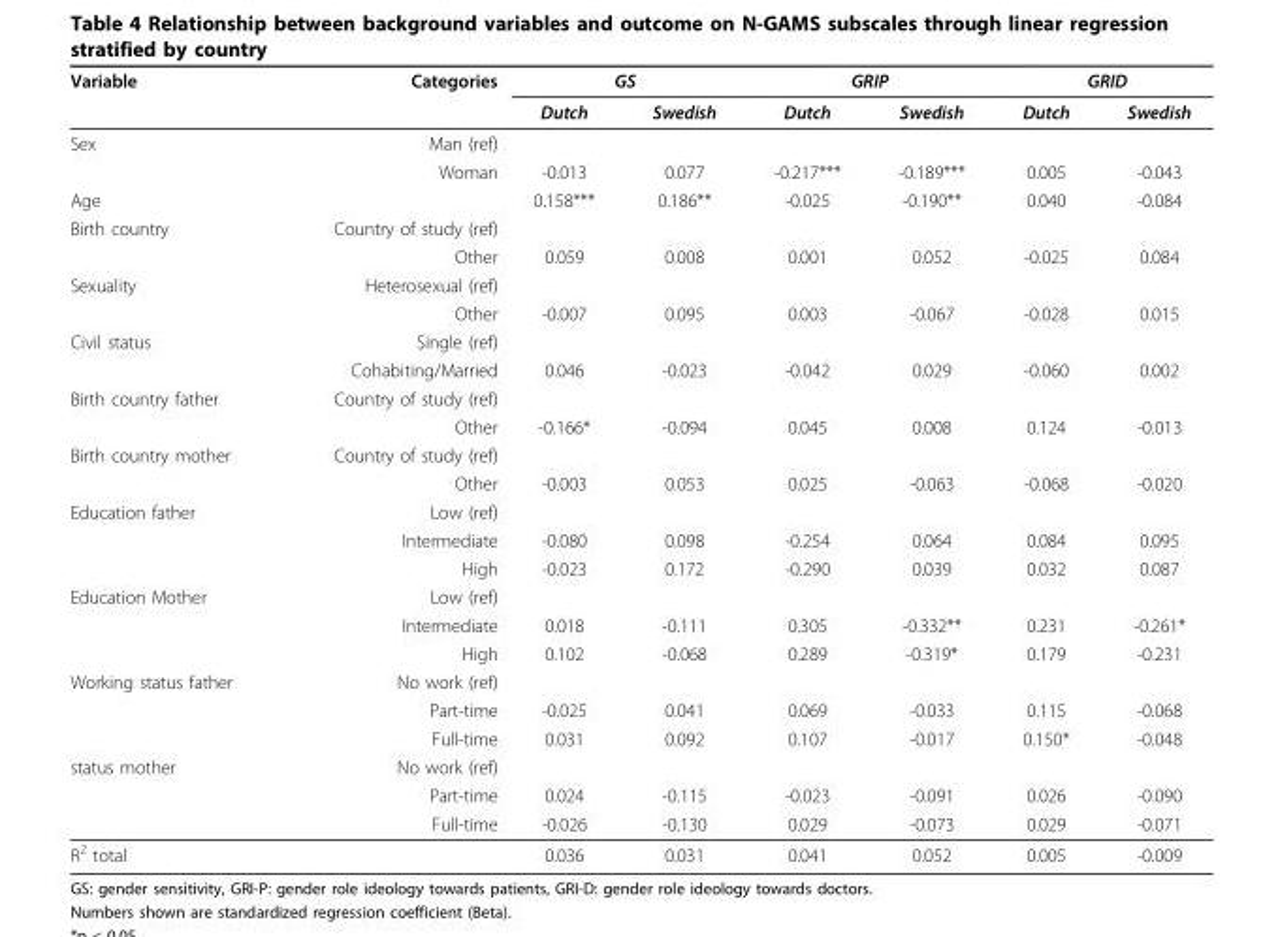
<table><thead><tr><td rowspan="2">Variable</td><td rowspan="2">Categories</td><td colspan="2">GS</td><td colspan="2">GRIP</td><td colspan="2">GRID</td></tr><tr><td>Dutch</td><td>Swedish</td><td>Dutch</td><td>Swedish</td><td>Dutch</td><td>Swedish</td></tr></thead><tbody><tr><td rowspan="2">Sex</td><td>Man (ref)</td><td></td><td></td><td></td><td></td><td></td><td></td></tr><tr><td>Woman</td><td>-0.013</td><td>0.077</td><td>-0.217***</td><td>-0.189***</td><td>0.005</td><td>-0.043</td></tr><tr><td>Age</td><td></td><td>0.158***</td><td>0.186**</td><td>-0.025</td><td>-0.190**</td><td>0.040</td><td>-0.084</td></tr><tr><td rowspan="2">Birth country</td><td>Country of study (ref)</td><td></td><td></td><td></td><td></td><td></td><td></td></tr><tr><td>Other</td><td>0.059</td><td>0.008</td><td>0.001</td><td>0.052</td><td>-0.025</td><td>0.084</td></tr><tr><td rowspan="2">Sexuality</td><td>Heterosexual (ref)</td><td></td><td></td><td></td><td></td><td></td><td></td></tr><tr><td>Other</td><td>-0.007</td><td>0.095</td><td>0.003</td><td>-0.067</td><td>-0.028</td><td>0.015</td></tr><tr><td rowspan="2">Civil status</td><td>Single (ref)</td><td></td><td></td><td></td><td></td><td></td><td></td></tr><tr><td>Cohabiting/Married</td><td>0.046</td><td>-0.023</td><td>-0.042</td><td>0.029</td><td>-0.060</td><td>0.002</td></tr><tr><td rowspan="2">Birth country father</td><td>Country of study (ref)</td><td></td><td></td><td></td><td></td><td></td><td></td></tr><tr><td>Other</td><td>-0.166*</td><td>-0.094</td><td>0.045</td><td>0.008</td><td>0.124</td><td>-0.013</td></tr><tr><td rowspan="2">Birth country mother</td><td>Country of study (ref)</td><td></td><td></td><td></td><td></td><td></td><td></td></tr><tr><td>Other</td><td>-0.003</td><td>0.053</td><td>0.025</td><td>-0.063</td><td>-0.068</td><td>-0.020</td></tr><tr><td rowspan="3">Education father</td><td>Low (ref)</td><td></td><td></td><td></td><td></td><td></td><td></td></tr><tr><td>Intermediate</td><td>-0.080</td><td>0.098</td><td>-0.254</td><td>0.064</td><td>0.084</td><td>0.095</td></tr><tr><td>High</td><td>-0.023</td><td>0.172</td><td>-0.290</td><td>0.039</td><td>0.032</td><td>0.087</td></tr><tr><td rowspan="3">Education Mother</td><td>Low (ref)</td><td></td><td></td><td></td><td></td><td></td><td></td></tr><tr><td>Intermediate</td><td>0.018</td><td>-0.111</td><td>0.305</td><td>-0.332**</td><td>0.231</td><td>-0.261*</td></tr><tr><td>High</td><td>0.102</td><td>-0.068</td><td>0.289</td><td>-0.319*</td><td>0.179</td><td>-0.231</td></tr><tr><td rowspan="3">Working status father</td><td>No work (ref)</td><td></td><td></td><td></td><td></td><td></td><td></td></tr><tr><td>Part-time</td><td>-0.025</td><td>0.041</td><td>0.069</td><td>-0.033</td><td>0.115</td><td>-0.068</td></tr><tr><td>Full-time</td><td>0.031</td><td>0.092</td><td>0.107</td><td>-0.017</td><td>0.150*</td><td>-0.048</td></tr><tr><td rowspan="3">status mother</td><td>No work (ref)</td><td></td><td></td><td></td><td></td><td></td><td></td></tr><tr><td>Part-time</td><td>0.024</td><td>-0.115</td><td>-0.023</td><td>-0.091</td><td>0.026</td><td>-0.090</td></tr><tr><td>Full-time</td><td>-0.026</td><td>-0.130</td><td>0.029</td><td>-0.073</td><td>0.029</td><td>-0.071</td></tr><tr><td>R<sup>2</sup> total</td><td></td><td>0.036</td><td>0.031</td><td>0.041</td><td>0.052</td><td>0.005</td><td>-0.009</td></tr></tbody></table>